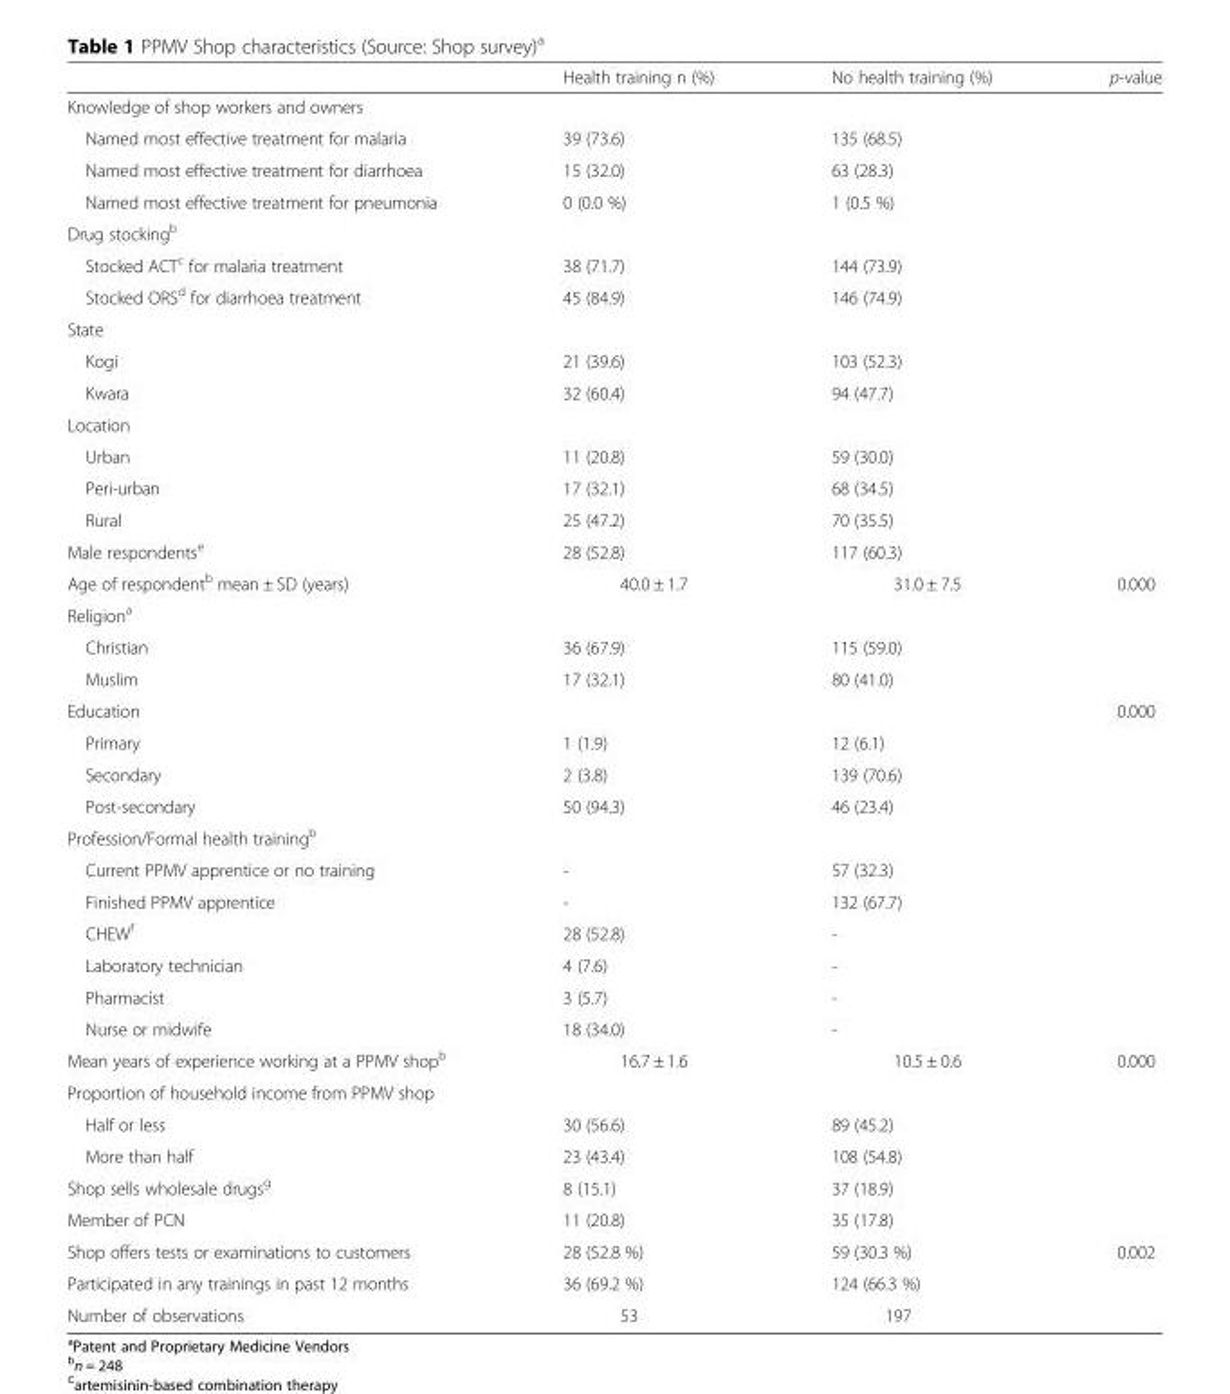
<table><thead><tr><td></td><td>Health training n (%)</td><td>No health training (%)</td><td>p-value</td></tr></thead><tbody><tr><td colspan="4">Knowledge of shop workers and owners</td></tr><tr><td>Named most effective treatment for malaria</td><td>39 (73.6)</td><td>135 (68.5)</td><td></td></tr><tr><td>Named most effective treatment for diarrhoea</td><td>15 (32.0)</td><td>63 (28.3)</td><td></td></tr><tr><td>Named most effective treatment for pneumonia</td><td>0 (0.0 %)</td><td>1 (0.5 %)</td><td></td></tr><tr><td colspan="4">Drug stocking<sup>b</sup></td></tr><tr><td>Stocked ACT<sup>c</sup> for malaria treatment</td><td>38 (71.7)</td><td>144 (73.9)</td><td></td></tr><tr><td>Stocked ORS<sup>d</sup> for diarrhoea treatment</td><td>45 (84.9)</td><td>146 (74.9)</td><td></td></tr><tr><td colspan="4">State</td></tr><tr><td>Kogi</td><td>21 (39.6)</td><td>103 (52.3)</td><td></td></tr><tr><td>Kwara</td><td>32 (60.4)</td><td>94 (47.7)</td><td></td></tr><tr><td colspan="4">Location</td></tr><tr><td>Urban</td><td>11 (20.8)</td><td>59 (30.0)</td><td></td></tr><tr><td>Peri-urban</td><td>17 (32.1)</td><td>68 (34.5)</td><td></td></tr><tr><td>Rural</td><td>25 (47.2)</td><td>70 (35.5)</td><td></td></tr><tr><td>Male respondents<sup>e</sup></td><td>28 (52.8)</td><td>117 (60.3)</td><td></td></tr><tr><td>Age of respondent<sup>b</sup> mean ± SD (years)</td><td>40.0 ± 1.7</td><td>31.0 ± 7.5</td><td>0.000</td></tr><tr><td colspan="4">Religion<sup>a</sup></td></tr><tr><td>Christian</td><td>36 (67.9)</td><td>115 (59.0)</td><td></td></tr><tr><td>Muslim</td><td>17 (32.1)</td><td>80 (41.0)</td><td></td></tr><tr><td>Education</td><td></td><td></td><td>0.000</td></tr><tr><td>Primary</td><td>1 (1.9)</td><td>12 (6.1)</td><td></td></tr><tr><td>Secondary</td><td>2 (3.8)</td><td>139 (70.6)</td><td></td></tr><tr><td>Post-secondary</td><td>50 (94.3)</td><td>46 (23.4)</td><td></td></tr><tr><td colspan="4">Profession/Formal health training<sup>b</sup></td></tr><tr><td>Current PPMV apprentice or no training</td><td>-</td><td>57 (32.3)</td><td></td></tr><tr><td>Finished PPMV apprentice</td><td>-</td><td>132 (67.7)</td><td></td></tr><tr><td>CHEW<sup>f</sup></td><td>28 (52.8)</td><td>-</td><td></td></tr><tr><td>Laboratory technician</td><td>4 (7.6)</td><td>-</td><td></td></tr><tr><td>Pharmacist</td><td>3 (5.7)</td><td>-</td><td></td></tr><tr><td>Nurse or midwife</td><td>18 (34.0)</td><td>-</td><td></td></tr><tr><td>Mean years of experience working at a PPMV shop<sup>b</sup></td><td>16.7 ± 1.6</td><td>10.5 ± 0.6</td><td>0.000</td></tr><tr><td colspan="4">Proportion of household income from PPMV shop</td></tr><tr><td>Half or less</td><td>30 (56.6)</td><td>89 (45.2)</td><td></td></tr><tr><td>More than half</td><td>23 (43.4)</td><td>108 (54.8)</td><td></td></tr><tr><td>Shop sells wholesale drugs<sup>g</sup></td><td>8 (15.1)</td><td>37 (18.9)</td><td></td></tr><tr><td>Member of PCN</td><td>11 (20.8)</td><td>35 (17.8)</td><td></td></tr><tr><td>Shop offers tests or examinations to customers</td><td>28 (52.8 %)</td><td>59 (30.3 %)</td><td>0.002</td></tr><tr><td>Participated in any trainings in past 12 months</td><td>36 (69.2 %)</td><td>124 (66.3 %)</td><td></td></tr><tr><td>Number of observations</td><td>53</td><td>197</td><td></td></tr></tbody></table>